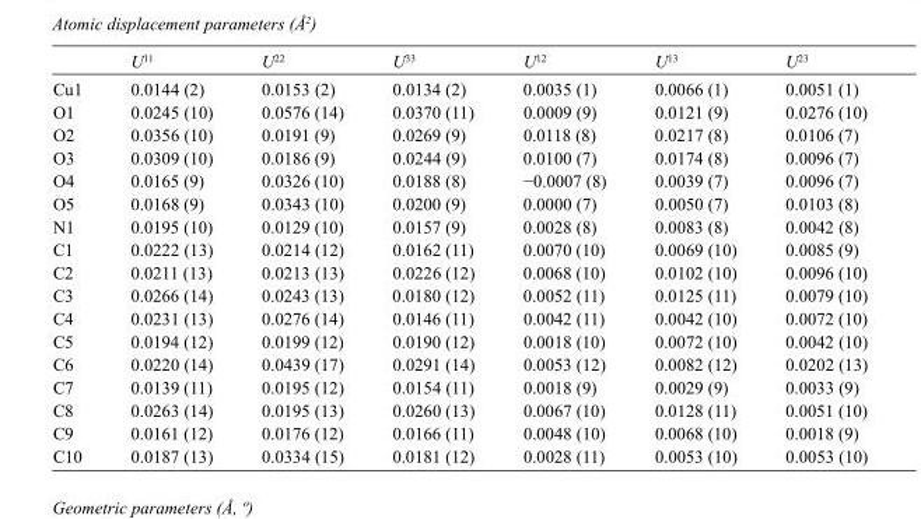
<table><thead><tr><td></td><td>U<sup>11</sup></td><td>U<sup>22</sup></td><td>U<sup>33</sup></td><td>U<sup>12</sup></td><td>U<sup>13</sup></td><td>U<sup>23</sup></td></tr></thead><tbody><tr><td>Cu1</td><td>0.0144 (2)</td><td>0.0153 (2)</td><td>0.0134 (2)</td><td>0.0035 (1)</td><td>0.0066 (1)</td><td>0.0051 (1)</td></tr><tr><td>O1</td><td>0.0245 (10)</td><td>0.0576 (14)</td><td>0.0370 (11)</td><td>0.0009 (9)</td><td>0.0121 (9)</td><td>0.0276 (10)</td></tr><tr><td>O2</td><td>0.0356 (10)</td><td>0.0191 (9)</td><td>0.0269 (9)</td><td>0.0118 (8)</td><td>0.0217 (8)</td><td>0.0106 (7)</td></tr><tr><td>O3</td><td>0.0309 (10)</td><td>0.0186 (9)</td><td>0.0244 (9)</td><td>0.0100 (7)</td><td>0.0174 (8)</td><td>0.0096 (7)</td></tr><tr><td>O4</td><td>0.0165 (9)</td><td>0.0326 (10)</td><td>0.0188 (8)</td><td>−0.0007 (8)</td><td>0.0039 (7)</td><td>0.0096 (7)</td></tr><tr><td>O5</td><td>0.0168 (9)</td><td>0.0343 (10)</td><td>0.0200 (9)</td><td>0.0000 (7)</td><td>0.0050 (7)</td><td>0.0103 (8)</td></tr><tr><td>N1</td><td>0.0195 (10)</td><td>0.0129 (10)</td><td>0.0157 (9)</td><td>0.0028 (8)</td><td>0.0083 (8)</td><td>0.0042 (8)</td></tr><tr><td>C1</td><td>0.0222 (13)</td><td>0.0214 (12)</td><td>0.0162 (11)</td><td>0.0070 (10)</td><td>0.0069 (10)</td><td>0.0085 (9)</td></tr><tr><td>C2</td><td>0.0211 (13)</td><td>0.0213 (13)</td><td>0.0226 (12)</td><td>0.0068 (10)</td><td>0.0102 (10)</td><td>0.0096 (10)</td></tr><tr><td>C3</td><td>0.0266 (14)</td><td>0.0243 (13)</td><td>0.0180 (12)</td><td>0.0052 (11)</td><td>0.0125 (11)</td><td>0.0079 (10)</td></tr><tr><td>C4</td><td>0.0231 (13)</td><td>0.0276 (14)</td><td>0.0146 (11)</td><td>0.0042 (11)</td><td>0.0042 (10)</td><td>0.0072 (10)</td></tr><tr><td>C5</td><td>0.0194 (12)</td><td>0.0199 (12)</td><td>0.0190 (12)</td><td>0.0018 (10)</td><td>0.0072 (10)</td><td>0.0042 (10)</td></tr><tr><td>C6</td><td>0.0220 (14)</td><td>0.0439 (17)</td><td>0.0291 (14)</td><td>0.0053 (12)</td><td>0.0082 (12)</td><td>0.0202 (13)</td></tr><tr><td>C7</td><td>0.0139 (11)</td><td>0.0195 (12)</td><td>0.0154 (11)</td><td>0.0018 (9)</td><td>0.0029 (9)</td><td>0.0033 (9)</td></tr><tr><td>C8</td><td>0.0263 (14)</td><td>0.0195 (13)</td><td>0.0260 (13)</td><td>0.0067 (10)</td><td>0.0128 (11)</td><td>0.0051 (10)</td></tr><tr><td>C9</td><td>0.0161 (12)</td><td>0.0176 (12)</td><td>0.0166 (11)</td><td>0.0048 (10)</td><td>0.0068 (10)</td><td>0.0018 (9)</td></tr><tr><td>C10</td><td>0.0187 (13)</td><td>0.0334 (15)</td><td>0.0181 (12)</td><td>0.0028 (11)</td><td>0.0053 (10)</td><td>0.0053 (10)</td></tr></tbody></table>